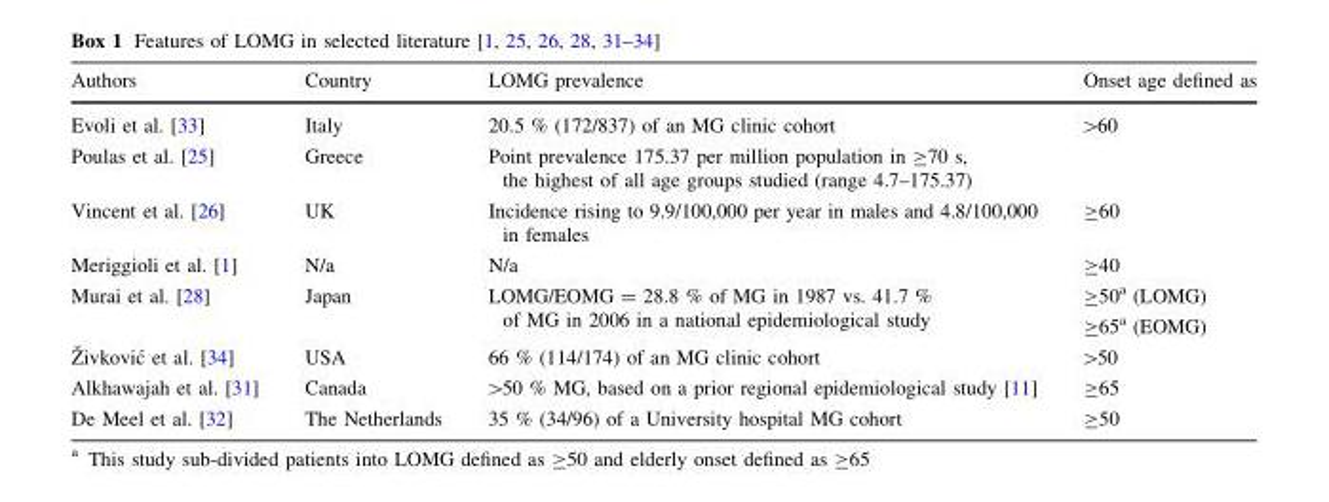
<table><thead><tr><td>Authors</td><td>Country</td><td>LOMG prevalence</td><td>Onset age defined as</td></tr></thead><tbody><tr><td>Evoli et al. [33]</td><td>Italy</td><td>20.5 % (172/837) of an MG clinic cohort</td><td>&gt;60</td></tr><tr><td>Poulas et al. [25]</td><td>Greece</td><td colspan="2">Point prevalence 175.37 per million population in ≥70 s, the highest of all age groups studied (range 4.7–175.37)</td></tr><tr><td>Vincent et al. [26]</td><td>UK</td><td>Incidence rising to 9.9/100,000 per year in males and 4.8/100,000 in females</td><td>≥60</td></tr><tr><td>Meriggioli et al. [1]</td><td>N/a</td><td>N/a</td><td>≥40</td></tr><tr><td>Murai et al. [28]</td><td>Japan</td><td>LOMG/EOMG = 28.8 % of MG in 1987 vs. 41.7 % of MG in 2006 in a national epidemiological study</td><td>≥50<sup>a</sup> (LOMG) ≥65<sup>a</sup> (EOMG)</td></tr><tr><td>Zˇivkovic´ et al. [34]</td><td>USA</td><td>66 % (114/174) of an MG clinic cohort</td><td>&gt;50</td></tr><tr><td>Alkhawajah et al. [31]</td><td>Canada</td><td>&gt;50 % MG, based on a prior regional epidemiological study [11]</td><td>≥65</td></tr><tr><td>De Meel et al. [32]</td><td>The Netherlands</td><td>35 % (34/96) of a University hospital MG cohort</td><td>≥50</td></tr></tbody></table>